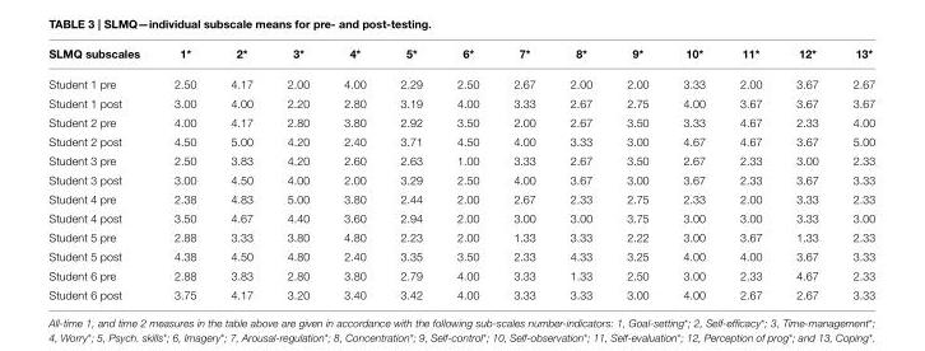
<table><thead><tr><td>SLMQ subscales</td><td>1*</td><td>2*</td><td>3*</td><td>4*</td><td>5*</td><td>6*</td><td>7*</td><td>8*</td><td>9*</td><td>10*</td><td>11*</td><td>12*</td><td>13*</td></tr></thead><tbody><tr><td>Student 1 pre</td><td>2.50</td><td>4.17</td><td>2.00</td><td>4.00</td><td>2.29</td><td>2.50</td><td>2.67</td><td>2.00</td><td>2.00</td><td>3.33</td><td>2.00</td><td>3.67</td><td>2.67</td></tr><tr><td>Student 1 post</td><td>3.00</td><td>4.00</td><td>2.20</td><td>2.80</td><td>3.19</td><td>4.00</td><td>3.33</td><td>2.67</td><td>2.75</td><td>4.00</td><td>3.67</td><td>3.67</td><td>3.67</td></tr><tr><td>Student 2 pre</td><td>4.00</td><td>4.17</td><td>2.80</td><td>3.80</td><td>2.92</td><td>3.50</td><td>2.00</td><td>2.67</td><td>3.50</td><td>3.33</td><td>4.67</td><td>2.33</td><td>4.00</td></tr><tr><td>Student 2 post</td><td>4.50</td><td>5.00</td><td>4.20</td><td>2.40</td><td>3.71</td><td>4.50</td><td>4.00</td><td>3.33</td><td>3.00</td><td>4.67</td><td>4.67</td><td>3.67</td><td>5.00</td></tr><tr><td>Student 3 pre</td><td>2.50</td><td>3.83</td><td>4.20</td><td>2.60</td><td>2.63</td><td>1.00</td><td>3.33</td><td>2.67</td><td>3.50</td><td>2.67</td><td>2.33</td><td>3.00</td><td>2.33</td></tr><tr><td>Student 3 post</td><td>3.00</td><td>4.50</td><td>4.00</td><td>2.00</td><td>3.29</td><td>2.50</td><td>4.00</td><td>3.67</td><td>3.00</td><td>3.67</td><td>2.33</td><td>3.67</td><td>3.33</td></tr><tr><td>Student 4 pre</td><td>2.38</td><td>4.83</td><td>5.00</td><td>3.80</td><td>2.44</td><td>2.00</td><td>2.67</td><td>2.33</td><td>2.75</td><td>2.33</td><td>2.00</td><td>3.33</td><td>2.33</td></tr><tr><td>Student 4 post</td><td>3.50</td><td>4.67</td><td>4.40</td><td>3.60</td><td>2.94</td><td>2.00</td><td>3.00</td><td>3.00</td><td>3.75</td><td>3.00</td><td>3.00</td><td>3.33</td><td>3.00</td></tr><tr><td>Student 5 pre</td><td>2.88</td><td>3.33</td><td>3.80</td><td>4.80</td><td>2.23</td><td>2.00</td><td>1.33</td><td>3.33</td><td>2.22</td><td>3.00</td><td>3.67</td><td>1.33</td><td>2.33</td></tr><tr><td>Student 5 post</td><td>4.38</td><td>4.50</td><td>4.80</td><td>2.40</td><td>3.35</td><td>3.50</td><td>2.33</td><td>4.33</td><td>3.25</td><td>4.00</td><td>4.00</td><td>3.67</td><td>3.33</td></tr><tr><td>Student 6 pre</td><td>2.88</td><td>3.83</td><td>2.80</td><td>3.80</td><td>2.79</td><td>4.00</td><td>3.33</td><td>1.33</td><td>2.50</td><td>3.00</td><td>2.33</td><td>4.67</td><td>2.33</td></tr><tr><td>Student 6 post</td><td>3.75</td><td>4.17</td><td>3.20</td><td>3.40</td><td>3.42</td><td>4.00</td><td>3.33</td><td>3.33</td><td>3.00</td><td>4.00</td><td>2.67</td><td>2.67</td><td>3.33</td></tr></tbody></table>